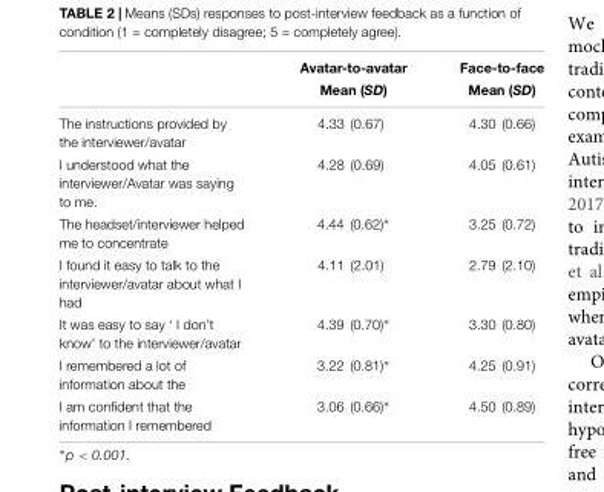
<table><thead><tr><td rowspan="2"></td><td rowspan="2">Avatar-to-avatar Mean (SD)</td><td rowspan="2">Face-to-face Mean (SD)</td></tr><tr></tr></thead><tbody><tr><td>The instructions provided by the interviewer/avatar</td><td>4.33 (0.67)</td><td>4.30 (0.66)</td></tr><tr><td>I understood what the interviewer/Avatar was saying to me.</td><td>4.28 (0.69)</td><td>4.05 (0.61)</td></tr><tr><td>The headset/interviewer helped me to concentrate</td><td>4.44 (0.62)∗</td><td>3.25 (0.72)</td></tr><tr><td>I found it easy to talk to the interviewer/avatar about what I had</td><td>4.11 (2.01)</td><td>2.79 (2.10)</td></tr><tr><td>It was easy to say ‘ I don’t know’ to the interviewer/avatar</td><td>4.39 (0.70)∗</td><td>3.30 (0.80)</td></tr><tr><td>I remembered a lot of information about the</td><td>3.22 (0.81)∗</td><td>4.25 (0.91)</td></tr><tr><td>I am confident that the information I remembered</td><td>3.06 (0.66)∗</td><td>4.50 (0.89)</td></tr></tbody></table>